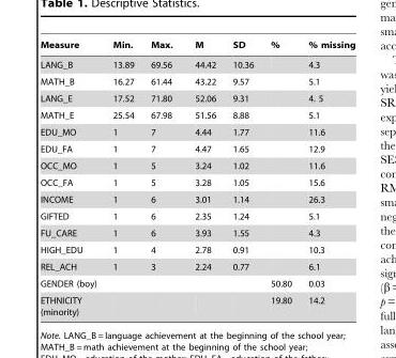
<table><thead><tr><td>Measure</td><td>Min.</td><td>Max.</td><td>M</td><td>SD</td><td>%</td><td>% missing</td></tr></thead><tbody><tr><td>LANG_B</td><td>13.89</td><td>69.56</td><td>44.42</td><td>10.36</td><td></td><td>4.3</td></tr><tr><td>MATH_B</td><td>16.27</td><td>61.44</td><td>43.22</td><td>9.57</td><td></td><td>5.1</td></tr><tr><td>LANG_E</td><td>17.52</td><td>71.80</td><td>52.06</td><td>9.31</td><td></td><td>4. 5</td></tr><tr><td>MATH_E</td><td>25.54</td><td>67.98</td><td>51.56</td><td>8.88</td><td></td><td>5.1</td></tr><tr><td>EDU_MO</td><td>1</td><td>7</td><td>4.44</td><td>1.77</td><td></td><td>11.6</td></tr><tr><td>EDU_FA</td><td>1</td><td>7</td><td>4.47</td><td>1.65</td><td></td><td>12.9</td></tr><tr><td>OCC_MO</td><td>1</td><td>5</td><td>3.24</td><td>1.02</td><td></td><td>11.6</td></tr><tr><td>OCC_FA</td><td>1</td><td>5</td><td>3.28</td><td>1.05</td><td></td><td>15.6</td></tr><tr><td>INCOME</td><td>1</td><td>6</td><td>3.01</td><td>1.14</td><td></td><td>26.3</td></tr><tr><td>GIFTED</td><td>1</td><td>6</td><td>2.35</td><td>1.24</td><td></td><td>5.1</td></tr><tr><td>FU_CARE</td><td>1</td><td>6</td><td>3.93</td><td>1.55</td><td></td><td>4.3</td></tr><tr><td>HIGH_EDU</td><td>1</td><td>4</td><td>2.78</td><td>0.91</td><td></td><td>10.3</td></tr><tr><td>REL_ACH</td><td>1</td><td>3</td><td>2.24</td><td>0.77</td><td></td><td>6.1</td></tr><tr><td>GENDER (boy)</td><td></td><td></td><td></td><td></td><td>50.80</td><td>0.03</td></tr><tr><td>ETHNICITY (minority)</td><td></td><td></td><td></td><td></td><td>19.80</td><td>14.2</td></tr></tbody></table>